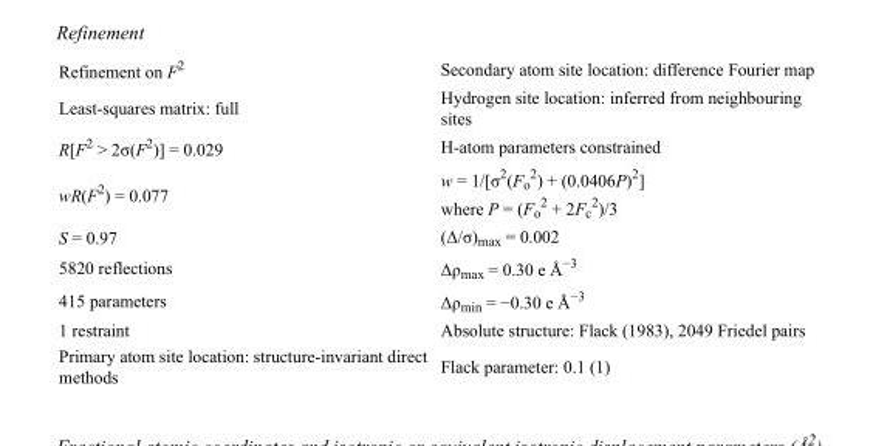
<table><tbody><tr><td>Refinement on F<sup>2</sup></td><td>Secondary atom site location: difference Fourier map</td></tr><tr><td>Least-squares matrix: full</td><td>Hydrogen site location: inferred from neighbouring sites</td></tr><tr><td>R[F<sup>2</sup> &gt; 2σ(F<sup>2</sup>)] = 0.029</td><td>H-atom parameters constrained</td></tr><tr><td>wR(F<sup>2</sup>) = 0.077</td><td>w = 1/[σ<sup>2</sup>(F<sub>o</sub> <sup>2</sup>) + (0.0406P)<sup>2</sup>] where P = (F<sub>o</sub> <sup>2</sup> + 2F<sub>c</sub> <sup>2</sup>)/3</td></tr><tr><td>S = 0.97</td><td>(Δ/σ)<sub>max</sub> = 0.002</td></tr><tr><td>5820 reflections</td><td>Δρ<sub>max</sub> = 0.30 e Å<sup>−3</sup></td></tr><tr><td>415 parameters</td><td>Δρ<sub>min</sub> = −0.30 e Å<sup>−3</sup></td></tr><tr><td>1 restraint</td><td>Absolute structure: Flack (1983), 2049 Friedel pairs</td></tr><tr><td>Primary atom site location: structure-invariant direct methods</td><td>Flack parameter: 0.1 (1)</td></tr></tbody></table>